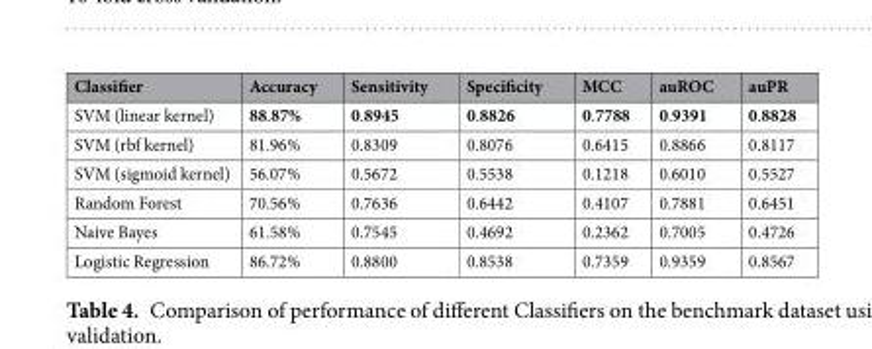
<table><thead><tr><td>Classifier</td><td>Accuracy</td><td>Sensitivity</td><td>Specificity</td><td>MCC</td><td>auROC</td><td>auPR</td></tr></thead><tbody><tr><td>SVM (linear kernel)</td><td>88.87%</td><td>0.8945</td><td>0.8826</td><td>0.7788</td><td>0.9391</td><td>0.8828</td></tr><tr><td>SVM (rbf kernel)</td><td>81.96%</td><td>0.8309</td><td>0.8076</td><td>0.6415</td><td>0.8866</td><td>0.8117</td></tr><tr><td>SVM (sigmoid kernel)</td><td>56.07%</td><td>0.5672</td><td>0.5538</td><td>0.1218</td><td>0.6010</td><td>0.5527</td></tr><tr><td>Random Forest</td><td>70.56%</td><td>0.7636</td><td>0.6442</td><td>0.4107</td><td>0.7881</td><td>0.6451</td></tr><tr><td>Naive Bayes</td><td>61.58%</td><td>0.7545</td><td>0.4692</td><td>0.2362</td><td>0.7005</td><td>0.4726</td></tr><tr><td>Logistic Regression</td><td>86.72%</td><td>0.8800</td><td>0.8538</td><td>0.7359</td><td>0.9359</td><td>0.8567</td></tr></tbody></table>